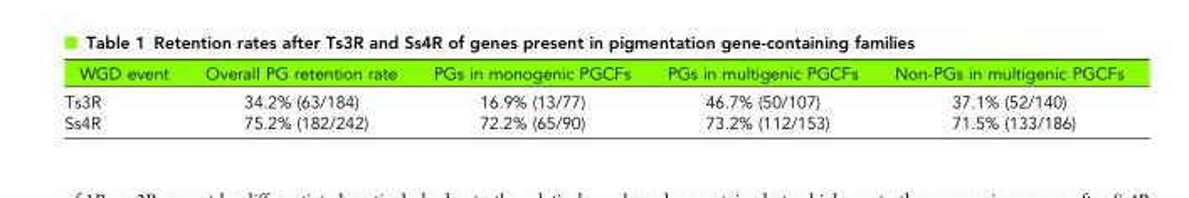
<table><thead><tr><td>WGD event</td><td>Overall PG retention rate</td><td>PGs in monogenic PGCFs</td><td>PGs in multigenic PGCFs</td><td>Non-PGs in multigenic PGCFs</td></tr></thead><tbody><tr><td>Ts3R</td><td>34.2% (63/184)</td><td>16.9% (13/77)</td><td>46.7% (50/107)</td><td>37.1% (52/140)</td></tr><tr><td>Ss4R</td><td>75.2% (182/242)</td><td>72.2% (65/90)</td><td>73.2% (112/153)</td><td>71.5% (133/186)</td></tr></tbody></table>